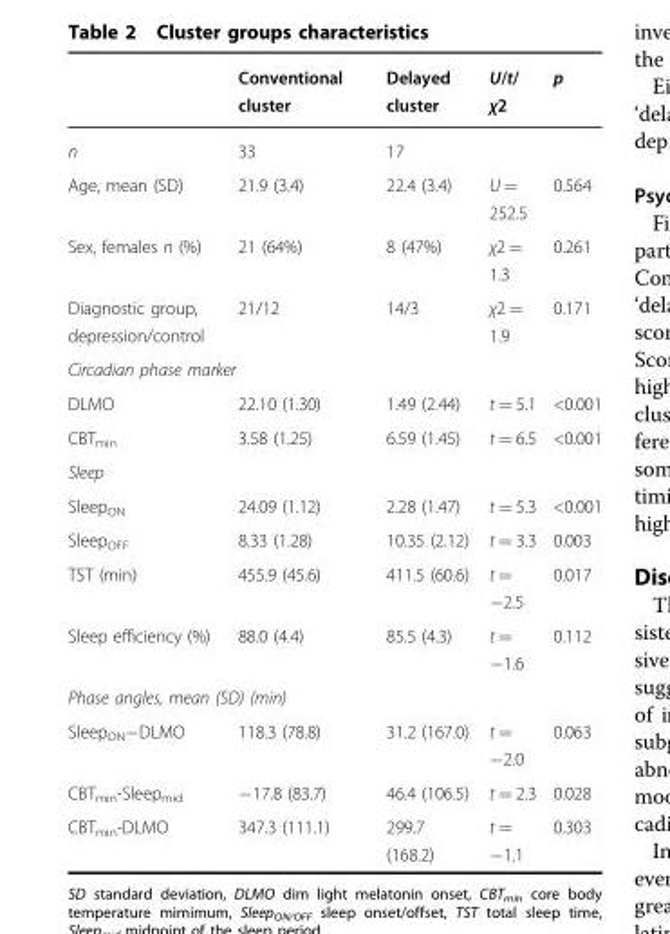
<table><thead><tr><td></td><td>Conventional cluster</td><td>Delayed cluster</td><td>U/t/ χ2</td><td>p</td></tr></thead><tbody><tr><td>n</td><td>33</td><td>17</td><td></td><td></td></tr><tr><td>Age, mean (SD)</td><td>21.9 (3.4)</td><td>22.4 (3.4)</td><td>U = 252.5</td><td>0.564</td></tr><tr><td>Sex, females n (%)</td><td>21 (64%)</td><td>8 (47%)</td><td>χ2 = 1.3</td><td>0.261</td></tr><tr><td>Diagnostic group, depression/control</td><td>21/12</td><td>14/3</td><td>χ2 = 1.9</td><td>0.171</td></tr><tr><td colspan="5">Circadian phase marker</td></tr><tr><td>DLMO</td><td>22.10 (1.30)</td><td>1.49 (2.44)</td><td>t = 5.1</td><td>&lt;0.001</td></tr><tr><td>CBT<sub>min</sub></td><td>3.58 (1.25)</td><td>6.59 (1.45)</td><td>t = 6.5</td><td>&lt;0.001</td></tr><tr><td colspan="5">Sleep</td></tr><tr><td>Sleep<sub>ON</sub></td><td>24.09 (1.12)</td><td>2.28 (1.47)</td><td>t = 5.3</td><td>&lt;0.001</td></tr><tr><td>Sleep<sub>OFF</sub></td><td>8.33 (1.28)</td><td>10.35 (2.12)</td><td>t = 3.3</td><td>0.003</td></tr><tr><td>TST (min)</td><td>455.9 (45.6)</td><td>411.5 (60.6)</td><td>t = −2.5</td><td>0.017</td></tr><tr><td>Sleep efficiency (%)</td><td>88.0 (4.4)</td><td>85.5 (4.3)</td><td>t = −1.6</td><td>0.112</td></tr><tr><td colspan="5">Phase angles, mean (SD) (min)</td></tr><tr><td>Sleep<sub>ON</sub>−DLMO</td><td>118.3 (78.8)</td><td>31.2 (167.0)</td><td>t = −2.0</td><td>0.063</td></tr><tr><td>CBT<sub>min</sub>-Sleep<sub>mid</sub></td><td>−17.8 (83.7)</td><td>46.4 (106.5)</td><td>t = 2.3</td><td>0.028</td></tr><tr><td>CBT<sub>min</sub>-DLMO</td><td>347.3 (111.1)</td><td>299.7 (168.2)</td><td>t = −1.1</td><td>0.303</td></tr></tbody></table>